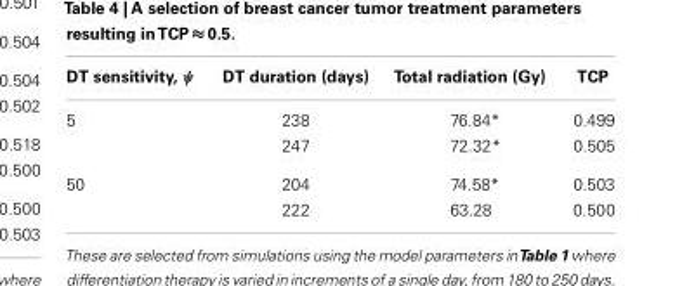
<table><thead><tr><td>DT sensitivity, ψ</td><td>DT duration (days)</td><td>Total radiation (Gy)</td><td>TCP</td></tr></thead><tbody><tr><td rowspan="2">5</td><td>238</td><td>76.84*</td><td>0.499</td></tr><tr><td>247</td><td>72.32*</td><td>0.505</td></tr><tr><td rowspan="2">50</td><td>204</td><td>74.58*</td><td>0.503</td></tr><tr><td>222</td><td>63.28</td><td>0.500</td></tr></tbody></table>